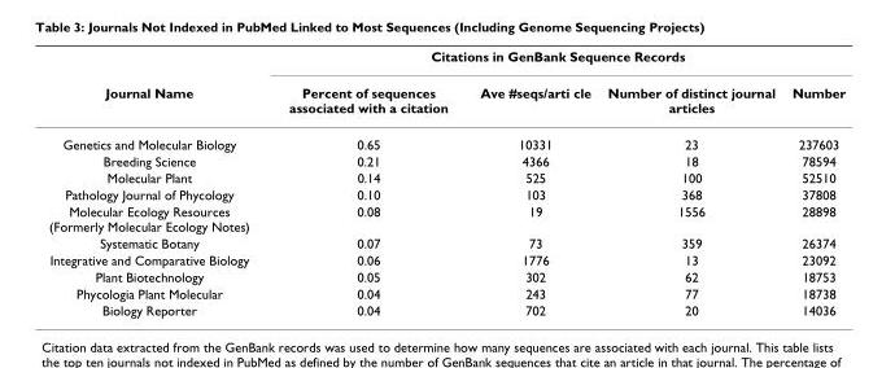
<table><thead><tr><td rowspan="2">Journal Name</td><td colspan="4">Citations in GenBank Sequence Records</td></tr><tr><td>Percent of sequences associated with a citation</td><td>Ave #seqs/arti cle</td><td>Number of distinct journal articles</td><td>Number</td></tr></thead><tbody><tr><td>Genetics and Molecular Biology</td><td>0.65</td><td>10331</td><td>23</td><td>237603</td></tr><tr><td>Breeding Science</td><td>0.21</td><td>4366</td><td>18</td><td>78594</td></tr><tr><td>Molecular Plant</td><td>0.14</td><td>525</td><td>100</td><td>52510</td></tr><tr><td>Pathology Journal of Phycology</td><td>0.10</td><td>103</td><td>368</td><td>37808</td></tr><tr><td>Molecular Ecology Resources (Formerly Molecular Ecology Notes)</td><td>0.08</td><td>19</td><td>1556</td><td>28898</td></tr><tr><td>Systematic Botany</td><td>0.07</td><td>73</td><td>359</td><td>26374</td></tr><tr><td>Integrative and Comparative Biology</td><td>0.06</td><td>1776</td><td>13</td><td>23092</td></tr><tr><td>Plant Biotechnology</td><td>0.05</td><td>302</td><td>62</td><td>18753</td></tr><tr><td>Phycologia Plant Molecular</td><td>0.04</td><td>243</td><td>77</td><td>18738</td></tr><tr><td>Biology Reporter</td><td>0.04</td><td>702</td><td>20</td><td>14036</td></tr></tbody></table>